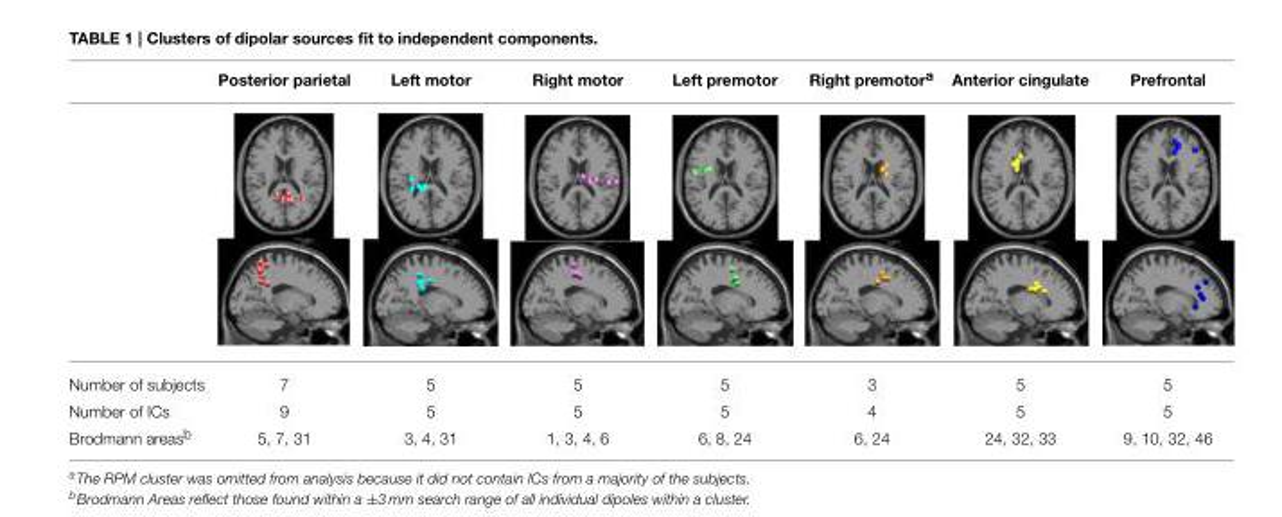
<table><thead><tr><td></td><td>Posterior parietal</td><td>Left motor</td><td>Right motor</td><td>Left premotor</td><td>Right premotor<sup>a</sup></td><td>Anterior cingulate</td><td>Prefrontal</td></tr></thead><tbody><tr><td>Number of subjects</td><td>7</td><td>5</td><td>5</td><td>5</td><td>3</td><td>5</td><td>5</td></tr><tr><td>Number of ICs</td><td>9</td><td>5</td><td>5</td><td>5</td><td>4</td><td>5</td><td>5</td></tr><tr><td>Brodmann areas<sup>b</sup></td><td>5, 7, 31</td><td>3, 4, 31</td><td>1, 3, 4, 6</td><td>6, 8, 24</td><td>6, 24</td><td>24, 32, 33</td><td>9, 10, 32, 46</td></tr></tbody></table>